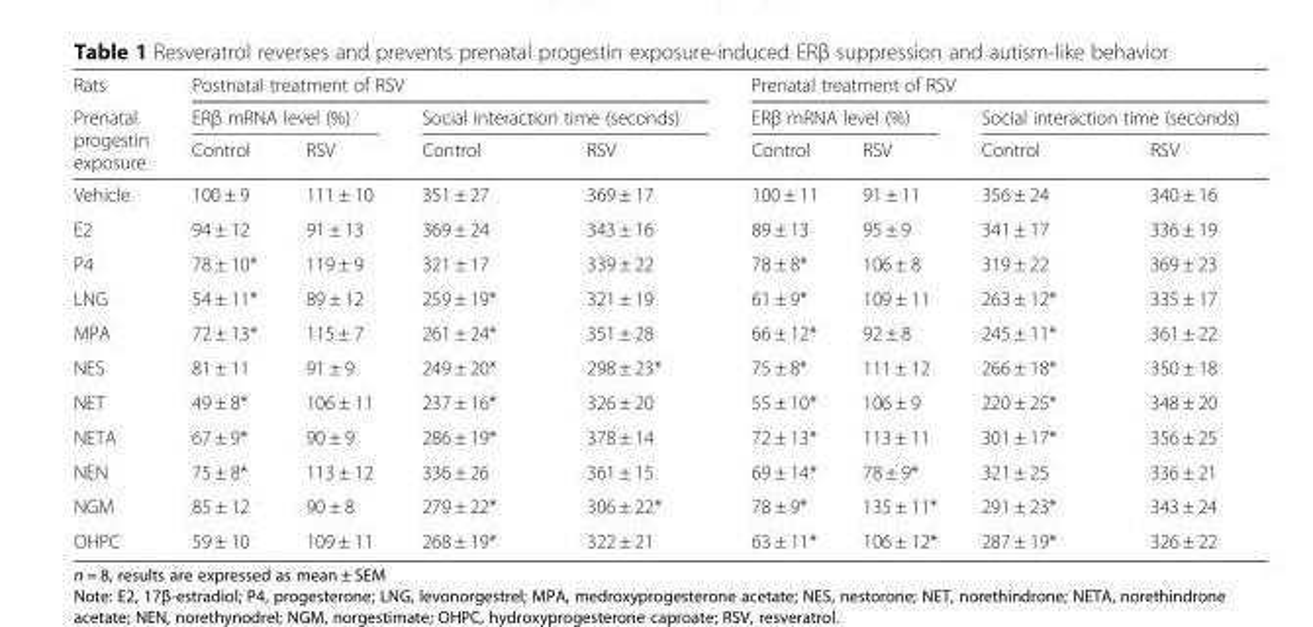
<table><thead><tr><td rowspan="3">Rats Prenatal progestin exposure</td><td colspan="4">Postnatal treatment of RSV</td><td colspan="4">Prenatal treatment of RSV</td></tr><tr><td colspan="2">ERβ mRNA level (%)</td><td colspan="2">Social interaction time (seconds)</td><td colspan="2">ERβ mRNA level (%)</td><td colspan="2">Social interaction time (seconds)</td></tr><tr><td>Control</td><td>RSV</td><td>Control</td><td>RSV</td><td>Control</td><td>RSV</td><td>Control</td><td>RSV</td></tr></thead><tbody><tr><td>Vehicle</td><td>100 ± 9</td><td>111 ± 10</td><td>351 ± 27</td><td>369 ± 17</td><td>100 ± 11</td><td>91 ± 11</td><td>356 ± 24</td><td>340 ± 16</td></tr><tr><td>E2</td><td>94 ± 12</td><td>91 ± 13</td><td>369 ± 24</td><td>343 ± 16</td><td>89 ± 13</td><td>95 ± 9</td><td>341 ± 17</td><td>336 ± 19</td></tr><tr><td>P4</td><td>78 ± 10*</td><td>119 ± 9</td><td>321 ± 17</td><td>339 ± 22</td><td>78 ± 8*</td><td>106 ± 8</td><td>319 ± 22</td><td>369 ± 23</td></tr><tr><td>LNG</td><td>54 ± 11*</td><td>89 ± 12</td><td>259 ± 19*</td><td>321 ± 19</td><td>61 ± 9*</td><td>109 ± 11</td><td>263 ± 12*</td><td>335 ± 17</td></tr><tr><td>MPA</td><td>72 ± 13*</td><td>115 ± 7</td><td>261 ± 24*</td><td>351 ± 28</td><td>66 ± 12*</td><td>92 ± 8</td><td>245 ± 11*</td><td>361 ± 22</td></tr><tr><td>NES</td><td>81 ± 11</td><td>91 ± 9</td><td>249 ± 20*</td><td>298 ± 23*</td><td>75 ± 8*</td><td>111 ± 12</td><td>266 ± 18*</td><td>350 ± 18</td></tr><tr><td>NET</td><td>49 ± 8*</td><td>106 ± 11</td><td>237 ± 16*</td><td>326 ± 20</td><td>55 ± 10*</td><td>106 ± 9</td><td>220 ± 25*</td><td>348 ± 20</td></tr><tr><td>NETA</td><td>67 ± 9*</td><td>90 ± 9</td><td>286 ± 19*</td><td>378 ± 14</td><td>72 ± 13*</td><td>113 ± 11</td><td>301 ± 17*</td><td>356 ± 25</td></tr><tr><td>NEN</td><td>75 ± 8*</td><td>113 ± 12</td><td>336 ± 26</td><td>361 ± 15</td><td>69 ± 14*</td><td>78 ± 9*</td><td>321 ± 25</td><td>336 ± 21</td></tr><tr><td>NGM</td><td>85 ± 12</td><td>90 ± 8</td><td>279 ± 22*</td><td>306 ± 22*</td><td>78 ± 9*</td><td>135 ± 11*</td><td>291 ± 23*</td><td>343 ± 24</td></tr><tr><td>OHPC</td><td>59 ± 10</td><td>109 ± 11</td><td>268 ± 19*</td><td>322 ± 21</td><td>63 ± 11*</td><td>106 ± 12*</td><td>287 ± 19*</td><td>326 ± 22</td></tr></tbody></table>